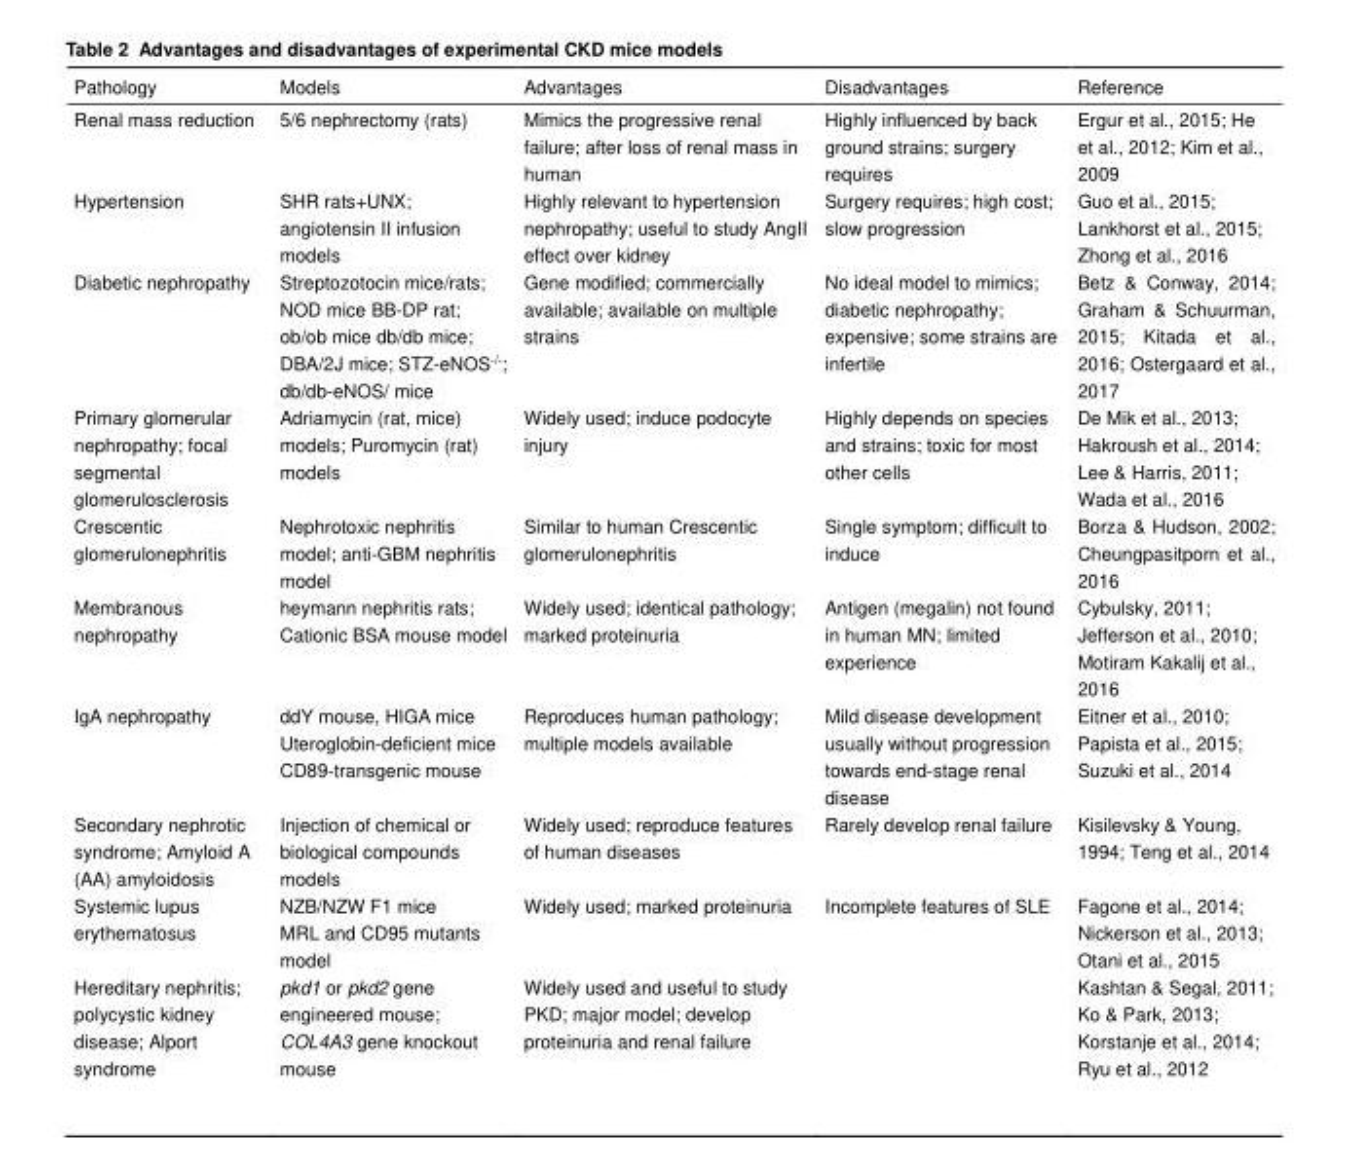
<table><thead><tr><td>Pathology</td><td>Models</td><td>Advantages</td><td>Disadvantages</td><td>Reference</td></tr></thead><tbody><tr><td>Renal mass reduction</td><td>5/6 nephrectomy (rats)</td><td>Mimics the progressive renal failure; after loss of renal mass in human</td><td>Highly influenced by back ground strains; surgery requires</td><td>Ergur et al., 2015; He et al., 2012; Kim et al., 2009</td></tr><tr><td>Hypertension</td><td>SHR rats+UNX; angiotensin II infusion models</td><td>Highly relevant to hypertension nephropathy; useful to study AngII effect over kidney</td><td>Surgery requires; high cost; slow progression</td><td>Guo et al., 2015; Lankhorst et al., 2015; Zhong et al., 2016</td></tr><tr><td>Diabetic nephropathy</td><td>Streptozotocin mice/rats; NOD mice BB-DP rat; ob/ob mice db/db mice; DBA/2J mice; STZ-eNOS<sup>-/-</sup>; db/db-eNOS/ mice</td><td>Gene modified; commercially available; available on multiple strains</td><td>No ideal model to mimics; diabetic nephropathy; expensive; some strains are infertile</td><td>Betz &amp; Conway, 2014; Graham &amp; Schuurman, 2015; Kitada et al., 2016; Ostergaard et al., 2017</td></tr><tr><td>Primary glomerular nephropathy; focal segmental glomerulosclerosis</td><td>Adriamycin (rat, mice) models; Puromycin (rat) models</td><td>Widely used; induce podocyte injury</td><td>Highly depends on species and strains; toxic for most other cells</td><td>De Mik et al., 2013; Hakroush et al., 2014; Lee &amp; Harris, 2011; Wada et al., 2016</td></tr><tr><td>Crescentic glomerulonephritis</td><td>Nephrotoxic nephritis model; anti-GBM nephritis model</td><td>Similar to human Crescentic glomerulonephritis</td><td>Single symptom; difficult to induce</td><td>Borza &amp; Hudson, 2002; Cheungpasitporn et al., 2016</td></tr><tr><td>Membranous nephropathy</td><td>heymann nephritis rats; Cationic BSA mouse model</td><td>Widely used; identical pathology; marked proteinuria</td><td>Antigen (megalin) not found in human MN; limited experience</td><td>Cybulsky, 2011; Jefferson et al., 2010; Motiram Kakalij et al., 2016</td></tr><tr><td>IgA nephropathy</td><td>ddY mouse, HIGA mice Uteroglobin-deficient mice CD89-transgenic mouse</td><td>Reproduces human pathology; multiple models available</td><td>Mild disease development usually without progression towards end-stage renal disease</td><td>Eitner et al., 2010; Papista et al., 2015; Suzuki et al., 2014</td></tr><tr><td>Secondary nephrotic syndrome; Amyloid A (AA) amyloidosis</td><td>Injection of chemical or biological compounds models</td><td>Widely used; reproduce features of human diseases</td><td>Rarely develop renal failure</td><td>Kisilevsky &amp; Young, 1994; Teng et al., 2014</td></tr><tr><td>Systemic lupus erythematosus</td><td>NZB/NZW F1 mice MRL and CD95 mutants model</td><td>Widely used; marked proteinuria</td><td>Incomplete features of SLE</td><td>Fagone et al., 2014; Nickerson et al., 2013; Otani et al., 2015</td></tr><tr><td>Hereditary nephritis; polycystic kidney disease; Alport syndrome</td><td>pkd1 or pkd2 gene engineered mouse; COL4A3 gene knockout mouse</td><td>Widely used and useful to study PKD; major model; develop proteinuria and renal failure</td><td></td><td>Kashtan &amp; Segal, 2011; Ko &amp; Park, 2013; Korstanje et al., 2014; Ryu et al., 2012</td></tr></tbody></table>